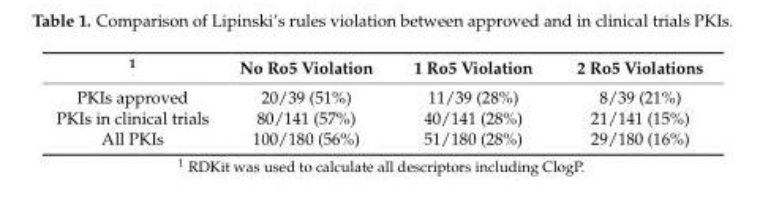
<table><thead><tr><td><sup>1</sup></td><td>No Ro5 Violation</td><td>1 Ro5 Violation</td><td>2 Ro5 Violations</td></tr></thead><tbody><tr><td>PKIs approved</td><td>20/39 (51%)</td><td>11/39 (28%)</td><td>8/39 (21%)</td></tr><tr><td>PKIs in clinical trials</td><td>80/141 (57%)</td><td>40/141 (28%)</td><td>21/141 (15%)</td></tr><tr><td>All PKIs</td><td>100/180 (56%)</td><td>51/180 (28%)</td><td>29/180 (16%)</td></tr></tbody></table>